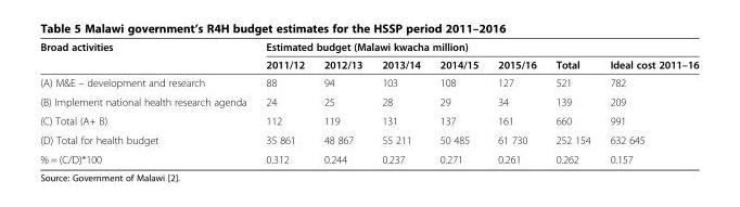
<table><thead><tr><td rowspan="2">Broad activities</td><td colspan="7">Estimated budget (Malawi kwacha million)</td></tr><tr><td>2011/12</td><td>2012/13</td><td>2013/14</td><td>2014/15</td><td>2015/16</td><td>Total</td><td>Ideal cost 2011–16</td></tr></thead><tbody><tr><td>(A) M&amp;E – development and research</td><td>88</td><td>94</td><td>103</td><td>108</td><td>127</td><td>521</td><td>782</td></tr><tr><td>(B) Implement national health research agenda</td><td>24</td><td>25</td><td>28</td><td>29</td><td>34</td><td>139</td><td>209</td></tr><tr><td>(C) Total (A+ B)</td><td>112</td><td>119</td><td>131</td><td>137</td><td>161</td><td>660</td><td>991</td></tr><tr><td>(D) Total for health budget</td><td>35 861</td><td>48 867</td><td>55 211</td><td>50 485</td><td>61 730</td><td>252 154</td><td>632 645</td></tr><tr><td>% = (C/D)*100</td><td>0.312</td><td>0.244</td><td>0.237</td><td>0.271</td><td>0.261</td><td>0.262</td><td>0.157</td></tr></tbody></table>